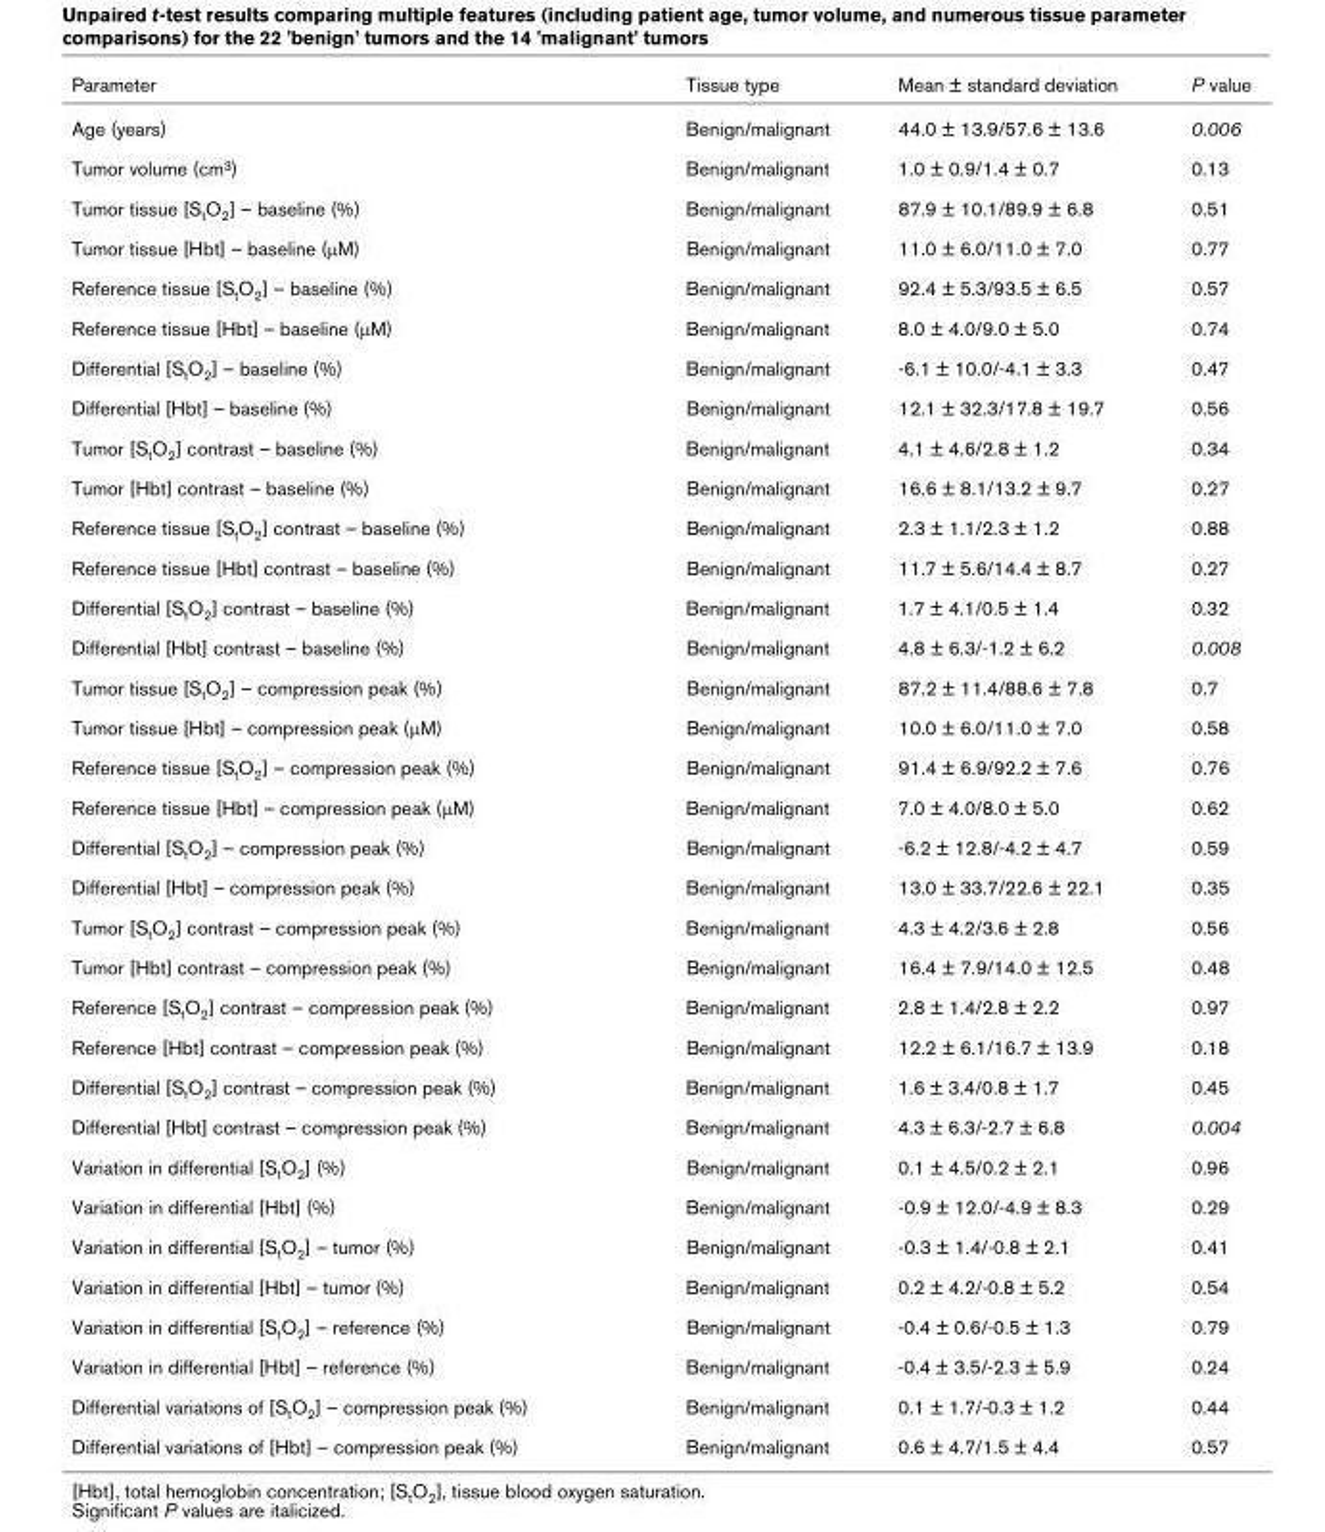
<table><thead><tr><td>Parameter</td><td>Tissue type</td><td>Mean ± standard deviation</td><td>P value</td></tr></thead><tbody><tr><td>Age (years)</td><td>Benign/malignant</td><td>44.0 ± 13.9/57.6 ± 13.6</td><td>0.006</td></tr><tr><td>Tumor volume (cm<sup>3</sup>)</td><td>Benign/malignant</td><td>1.0 ± 0.9/1.4 ± 0.7</td><td>0.13</td></tr><tr><td>Tumor tissue [S<sub>t</sub>O<sub>2</sub>] – baseline (%)</td><td>Benign/malignant</td><td>87.9 ± 10.1/89.9 ± 6.8</td><td>0.51</td></tr><tr><td>Tumor tissue [Hbt] – baseline (μM)</td><td>Benign/malignant</td><td>11.0 ± 6.0/11.0 ± 7.0</td><td>0.77</td></tr><tr><td>Reference tissue [S<sub>t</sub>O<sub>2</sub>] – baseline (%)</td><td>Benign/malignant</td><td>92.4 ± 5.3/93.5 ± 6.5</td><td>0.57</td></tr><tr><td>Reference tissue [Hbt] – baseline (μM)</td><td>Benign/malignant</td><td>8.0 ± 4.0/9.0 ± 5.0</td><td>0.74</td></tr><tr><td>Differential [S<sub>t</sub>O<sub>2</sub>] – baseline (%)</td><td>Benign/malignant</td><td>-6.1 ± 10.0/-4.1 ± 3.3</td><td>0.47</td></tr><tr><td>Differential [Hbt] – baseline (%)</td><td>Benign/malignant</td><td>12.1 ± 32.3/17.8 ± 19.7</td><td>0.56</td></tr><tr><td>Tumor [S<sub>t</sub>O<sub>2</sub>] contrast – baseline (%)</td><td>Benign/malignant</td><td>4.1 ± 4.6/2.8 ± 1.2</td><td>0.34</td></tr><tr><td>Tumor [Hbt] contrast – baseline (%)</td><td>Benign/malignant</td><td>16.6 ± 8.1/13.2 ± 9.7</td><td>0.27</td></tr><tr><td>Reference tissue [S<sub>t</sub>O<sub>2</sub>] contrast – baseline (%)</td><td>Benign/malignant</td><td>2.3 ± 1.1/2.3 ± 1.2</td><td>0.88</td></tr><tr><td>Reference tissue [Hbt] contrast – baseline (%)</td><td>Benign/malignant</td><td>11.7 ± 5.6/14.4 ± 8.7</td><td>0.27</td></tr><tr><td>Differential [S<sub>t</sub>O<sub>2</sub>] contrast – baseline (%)</td><td>Benign/malignant</td><td>1.7 ± 4.1/0.5 ± 1.4</td><td>0.32</td></tr><tr><td>Differential [Hbt] contrast – baseline (%)</td><td>Benign/malignant</td><td>4.8 ± 6.3/-1.2 ± 6.2</td><td>0.008</td></tr><tr><td>Tumor tissue [S<sub>t</sub>O<sub>2</sub>] – compression peak (%)</td><td>Benign/malignant</td><td>87.2 ± 11.4/88.6 ± 7.8</td><td>0.7</td></tr><tr><td>Tumor tissue [Hbt] – compression peak (μM)</td><td>Benign/malignant</td><td>10.0 ± 6.0/11.0 ± 7.0</td><td>0.58</td></tr><tr><td>Reference tissue [S<sub>t</sub>O<sub>2</sub>] – compression peak (%)</td><td>Benign/malignant</td><td>91.4 ± 6.9/92.2 ± 7.6</td><td>0.76</td></tr><tr><td>Reference tissue [Hbt] – compression peak (μM)</td><td>Benign/malignant</td><td>7.0 ± 4.0/8.0 ± 5.0</td><td>0.62</td></tr><tr><td>Differential [S<sub>t</sub>O<sub>2</sub>] – compression peak (%)</td><td>Benign/malignant</td><td>-6.2 ± 12.8/-4.2 ± 4.7</td><td>0.59</td></tr><tr><td>Differential [Hbt] – compression peak (%)</td><td>Benign/malignant</td><td>13.0 ± 33.7/22.6 ± 22.1</td><td>0.35</td></tr><tr><td>Tumor [S<sub>t</sub>O<sub>2</sub>] contrast – compression peak (%)</td><td>Benign/malignant</td><td>4.3 ± 4.2/3.6 ± 2.8</td><td>0.56</td></tr><tr><td>Tumor [Hbt] contrast – compression peak (%)</td><td>Benign/malignant</td><td>16.4 ± 7.9/14.0 ± 12.5</td><td>0.48</td></tr><tr><td>Reference [S<sub>t</sub>O<sub>2</sub>] contrast – compression peak (%)</td><td>Benign/malignant</td><td>2.8 ± 1.4/2.8 ± 2.2</td><td>0.97</td></tr><tr><td>Reference [Hbt] contrast – compression peak (%)</td><td>Benign/malignant</td><td>12.2 ± 6.1/16.7 ± 13.9</td><td>0.18</td></tr><tr><td>Differential [S<sub>t</sub>O<sub>2</sub>] contrast – compression peak (%)</td><td>Benign/malignant</td><td>1.6 ± 3.4/0.8 ± 1.7</td><td>0.45</td></tr><tr><td>Differential [Hbt] contrast – compression peak (%)</td><td>Benign/malignant</td><td>4.3 ± 6.3/-2.7 ± 6.8</td><td>0.004</td></tr><tr><td>Variation in differential [S<sub>t</sub>O<sub>2</sub>] (%)</td><td>Benign/malignant</td><td>0.1 ± 4.5/0.2 ± 2.1</td><td>0.96</td></tr><tr><td>Variation in differential [Hbt] (%)</td><td>Benign/malignant</td><td>-0.9 ± 12.0/-4.9 ± 8.3</td><td>0.29</td></tr><tr><td>Variation in differential [S<sub>t</sub>O<sub>2</sub>] – tumor (%)</td><td>Benign/malignant</td><td>-0.3 ± 1.4/-0.8 ± 2.1</td><td>0.41</td></tr><tr><td>Variation in differential [Hbt] – tumor (%)</td><td>Benign/malignant</td><td>0.2 ± 4.2/-0.8 ± 5.2</td><td>0.54</td></tr><tr><td>Variation in differential [S<sub>t</sub>O<sub>2</sub>] – reference (%)</td><td>Benign/malignant</td><td>-0.4 ± 0.6/-0.5 ± 1.3</td><td>0.79</td></tr><tr><td>Variation in differential [Hbt] – reference (%)</td><td>Benign/malignant</td><td>-0.4 ± 3.5/-2.3 ± 5.9</td><td>0.24</td></tr><tr><td>Differential variations of [S<sub>t</sub>O<sub>2</sub>] – compression peak (%)</td><td>Benign/malignant</td><td>0.1 ± 1.7/-0.3 ± 1.2</td><td>0.44</td></tr><tr><td>Differential variations of [Hbt] – compression peak (%)</td><td>Benign/malignant</td><td>0.6 ± 4.7/1.5 ± 4.4</td><td>0.57</td></tr></tbody></table>